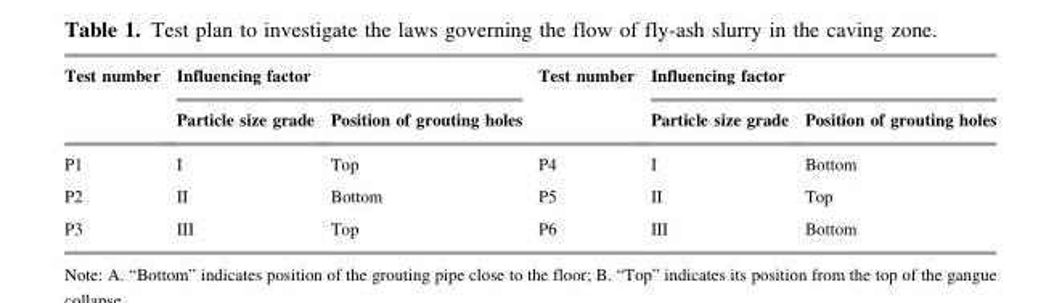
<table><thead><tr><td rowspan="2">Test number</td><td colspan="2">Influencing factor</td><td rowspan="2">Test number</td><td colspan="2">Influencing factor</td></tr><tr><td>Particle size grade</td><td>Position of grouting holes</td><td>Particle size grade</td><td>Position of grouting holes</td></tr></thead><tbody><tr><td>P1</td><td>I</td><td>Top</td><td>P4</td><td>I</td><td>Bottom</td></tr><tr><td>P2</td><td>II</td><td>Bottom</td><td>P5</td><td>II</td><td>Top</td></tr><tr><td>P3</td><td>III</td><td>Top</td><td>P6</td><td>III</td><td>Bottom</td></tr></tbody></table>